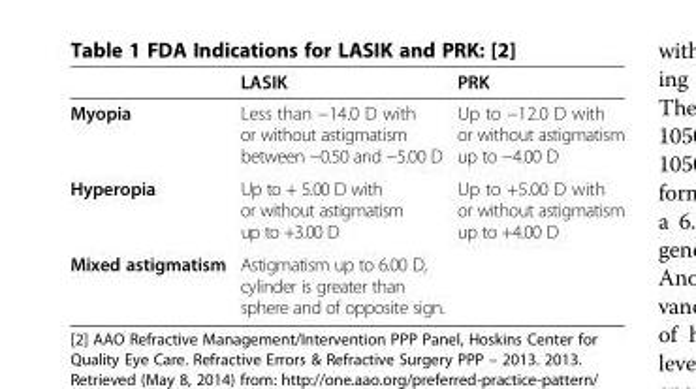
<table><thead><tr><td></td><td>LASIK</td><td>PRK</td></tr></thead><tbody><tr><td>Myopia</td><td>Less than −14.0 D with or without astigmatism between −0.50 and −5.00 D</td><td>Up to −12.0 D with or without astigmatism up to −4.00 D</td></tr><tr><td>Hyperopia</td><td>Up to + 5.00 D with or without astigmatism up to +3.00 D</td><td>Up to +5.00 D with or without astigmatism up to +4.00 D</td></tr><tr><td>Mixed astigmatism</td><td colspan="2">Astigmatism up to 6.00 D, cylinder is greater than sphere and of opposite sign.</td></tr></tbody></table>